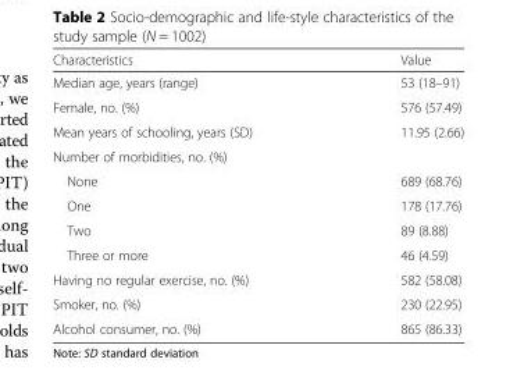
<table><thead><tr><td>Characteristics</td><td>Value</td></tr></thead><tbody><tr><td>Median age, years (range)</td><td>53 (18–91)</td></tr><tr><td>Female, no. (%)</td><td>576 (57.49)</td></tr><tr><td>Mean years of schooling, years (SD)</td><td>11.95 (2.66)</td></tr><tr><td colspan="2">Number of morbidities, no. (%)</td></tr><tr><td>None</td><td>689 (68.76)</td></tr><tr><td>One</td><td>178 (17.76)</td></tr><tr><td>Two</td><td>89 (8.88)</td></tr><tr><td>Three or more</td><td>46 (4.59)</td></tr><tr><td>Having no regular exercise, no. (%)</td><td>582 (58.08)</td></tr><tr><td>Smoker, no. (%)</td><td>230 (22.95)</td></tr><tr><td>Alcohol consumer, no. (%)</td><td>865 (86.33)</td></tr></tbody></table>